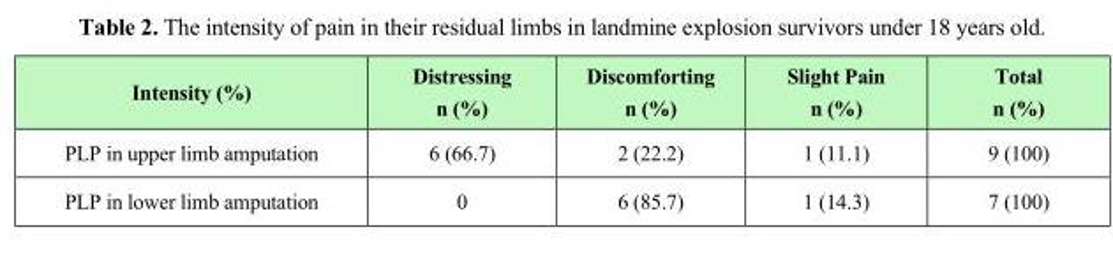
<table><thead><tr><td>Intensity (%)</td><td>Distressing n (%)</td><td>Discomforting n (%)</td><td>Slight Pain n (%)</td><td>Total n (%)</td></tr></thead><tbody><tr><td>PLP in upper limb amputation</td><td>6 (66.7)</td><td>2 (22.2)</td><td>1 (11.1)</td><td>9 (100)</td></tr><tr><td>PLP in lower limb amputation</td><td>0</td><td>6 (85.7)</td><td>1 (14.3)</td><td>7 (100)</td></tr></tbody></table>